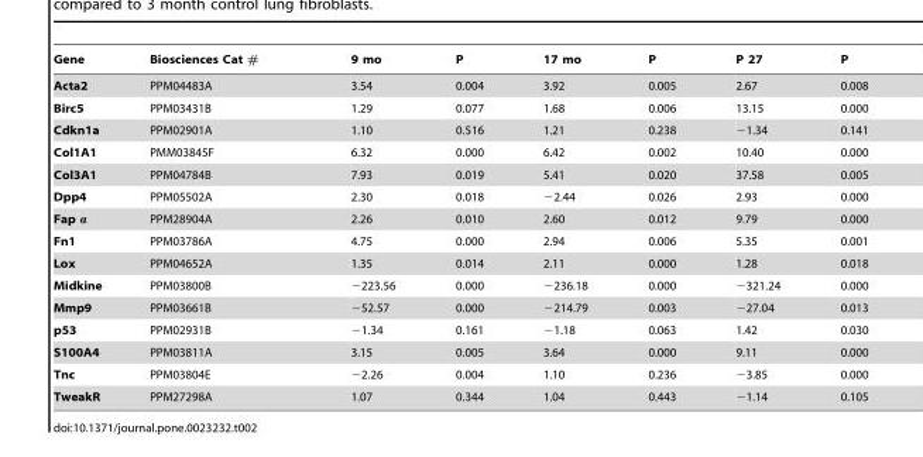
<table><thead><tr><td>Gene</td><td>Biosciences Cat #</td><td>9 mo</td><td>P</td><td>17 mo</td><td>P</td><td>P 27</td><td>P</td></tr></thead><tbody><tr><td>Acta2</td><td>PPM04483A</td><td>3.54</td><td>0.004</td><td>3.92</td><td>0.005</td><td>2.67</td><td>0.008</td></tr><tr><td>Birc5</td><td>PPM03431B</td><td>1.29</td><td>0.077</td><td>1.68</td><td>0.006</td><td>13.15</td><td>0.000</td></tr><tr><td>Cdkn1a</td><td>PPM02901A</td><td>1.10</td><td>0.516</td><td>1.21</td><td>0.238</td><td>−1.34</td><td>0.141</td></tr><tr><td>Col1A1</td><td>PMM03845F</td><td>6.32</td><td>0.000</td><td>6.42</td><td>0.002</td><td>10.40</td><td>0.000</td></tr><tr><td>Col3A1</td><td>PPM04784B</td><td>7.93</td><td>0.019</td><td>5.41</td><td>0.020</td><td>37.58</td><td>0.005</td></tr><tr><td>Dpp4</td><td>PPM05502A</td><td>2.30</td><td>0.018</td><td>−2.44</td><td>0.026</td><td>2.93</td><td>0.000</td></tr><tr><td>Fap α</td><td>PPM28904A</td><td>2.26</td><td>0.010</td><td>2.60</td><td>0.012</td><td>9.79</td><td>0.000</td></tr><tr><td>Fn1</td><td>PPM03786A</td><td>4.75</td><td>0.000</td><td>2.94</td><td>0.006</td><td>5.35</td><td>0.001</td></tr><tr><td>Lox</td><td>PPM04652A</td><td>1.35</td><td>0.014</td><td>2.11</td><td>0.000</td><td>1.28</td><td>0.018</td></tr><tr><td>Midkine</td><td>PPM03800B</td><td>−223.56</td><td>0.000</td><td>−236.18</td><td>0.000</td><td>−321.24</td><td>0.000</td></tr><tr><td>Mmp9</td><td>PPM03661B</td><td>−52.57</td><td>0.000</td><td>−214.79</td><td>0.003</td><td>−27.04</td><td>0.013</td></tr><tr><td>p53</td><td>PPM02931B</td><td>−1.34</td><td>0.161</td><td>−1.18</td><td>0.063</td><td>1.42</td><td>0.030</td></tr><tr><td>S100A4</td><td>PPM03811A</td><td>3.15</td><td>0.005</td><td>3.64</td><td>0.000</td><td>9.11</td><td>0.000</td></tr><tr><td>Tnc</td><td>PPM03804E</td><td>−2.26</td><td>0.004</td><td>1.10</td><td>0.236</td><td>−3.85</td><td>0.000</td></tr><tr><td>TweakR</td><td>PPM27298A</td><td>1.07</td><td>0.344</td><td>1.04</td><td>0.443</td><td>−1.14</td><td>0.105</td></tr></tbody></table>